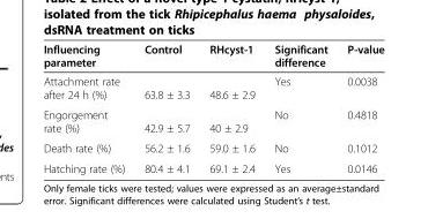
<table><thead><tr><td>Influencing parameter</td><td>Control</td><td>RHcyst-1</td><td>Significant difference</td><td>P-value</td></tr></thead><tbody><tr><td>Attachment rate after 24 h (%)</td><td>63.8 ± 3.3</td><td>48.6 ± 2.9</td><td>Yes</td><td>0.0038</td></tr><tr><td>Engorgement rate (%)</td><td>42.9 ± 5.7</td><td>40 ± 2.9</td><td>No</td><td>0.4818</td></tr><tr><td>Death rate (%)</td><td>56.2 ± 1.6</td><td>59.0 ± 1.6</td><td>No</td><td>0.1012</td></tr><tr><td>Hatching rate (%)</td><td>80.4 ± 4.1</td><td>69.1 ± 2.4</td><td>Yes</td><td>0.0146</td></tr></tbody></table>